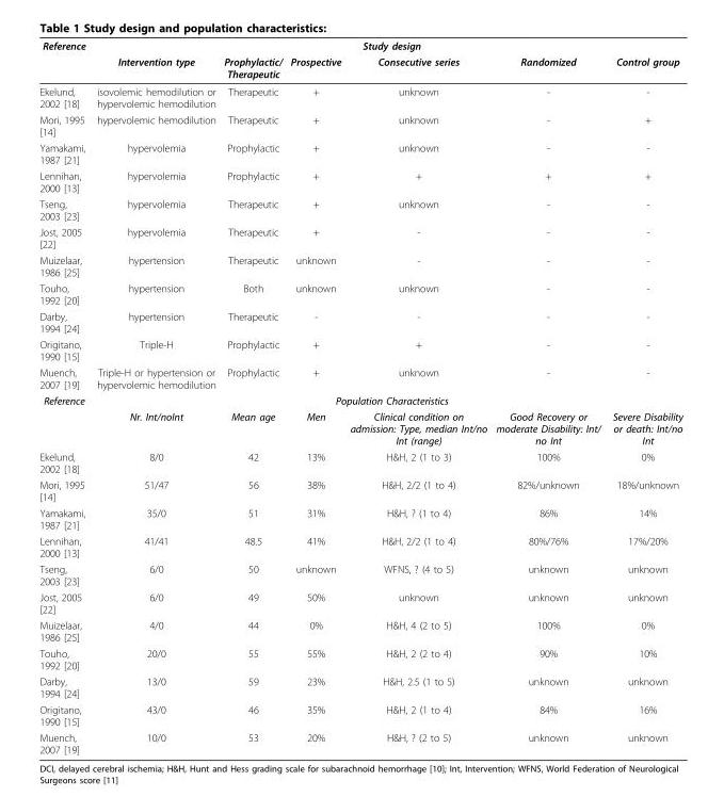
<table><thead><tr><td rowspan="2">Reference</td><td colspan="6">Study design</td></tr><tr><td>Intervention type</td><td>Prophylactic/ Therapeutic</td><td>Prospective</td><td>Consecutive series</td><td>Randomized</td><td>Control group</td></tr></thead><tbody><tr><td>Ekelund, 2002 [18]</td><td>isovolemic hemodilution or hypervolemic hemodilution</td><td>Therapeutic</td><td>+</td><td>unknown</td><td>-</td><td>-</td></tr><tr><td>Mori, 1995 [14]</td><td>hypervolemic hemodilution</td><td>Therapeutic</td><td>+</td><td>unknown</td><td>-</td><td>+</td></tr><tr><td>Yamakami, 1987 [21]</td><td>hypervolemia</td><td>Prophylactic</td><td>+</td><td>unknown</td><td>-</td><td>-</td></tr><tr><td>Lennihan, 2000 [13]</td><td>hypervolemia</td><td>Prophylactic</td><td>+</td><td>+</td><td>+</td><td>+</td></tr><tr><td>Tseng, 2003 [23]</td><td>hypervolemia</td><td>Therapeutic</td><td>+</td><td>unknown</td><td>-</td><td>-</td></tr><tr><td>Jost, 2005 [22]</td><td>hypervolemia</td><td>Therapeutic</td><td>+</td><td>-</td><td>-</td><td>-</td></tr><tr><td>Muizelaar, 1986 [25]</td><td>hypertension</td><td>Therapeutic</td><td>unknown</td><td>-</td><td>-</td><td>-</td></tr><tr><td>Touho, 1992 [20]</td><td>hypertension</td><td>Both</td><td>unknown</td><td>unknown</td><td>-</td><td>-</td></tr><tr><td>Darby, 1994 [24]</td><td>hypertension</td><td>Therapeutic</td><td>-</td><td>-</td><td>-</td><td>-</td></tr><tr><td>Origitano, 1990 [15]</td><td>Triple-H</td><td>Prophylactic</td><td>+</td><td>+</td><td>-</td><td>-</td></tr><tr><td>Muench, 2007 [19]</td><td>Triple-H or hypertension or hypervolemic hemodilution</td><td>Prophylactic</td><td>+</td><td>unknown</td><td>-</td><td>-</td></tr><tr><td rowspan="2">Reference</td><td colspan="6">Population Characteristics</td></tr><tr><td>Nr. Int/noInt</td><td>Mean age</td><td>Men</td><td>Clinical condition on admission: Type, median Int/no Int (range)</td><td>Good Recovery or moderate Disability: Int/ no Int</td><td>Severe Disability or death: Int/no Int</td></tr><tr><td>Ekelund, 2002 [18]</td><td>8/0</td><td>42</td><td>13%</td><td>H&amp;H, 2 (1 to 3)</td><td>100%</td><td>0%</td></tr><tr><td>Mori, 1995 [14]</td><td>51/47</td><td>56</td><td>38%</td><td>H&amp;H, 2/2 (1 to 4)</td><td>82%/unknown</td><td>18%/unknown</td></tr><tr><td>Yamakami, 1987 [21]</td><td>35/0</td><td>51</td><td>31%</td><td>H&amp;H, ? (1 to 4)</td><td>86%</td><td>14%</td></tr><tr><td>Lennihan, 2000 [13]</td><td>41/41</td><td>48.5</td><td>41%</td><td>H&amp;H, 2/2 (1 to 4)</td><td>80%/76%</td><td>17%/20%</td></tr><tr><td>Tseng, 2003 [23]</td><td>6/0</td><td>50</td><td>unknown</td><td>WFNS, ? (4 to 5)</td><td>unknown</td><td>unknown</td></tr><tr><td>Jost, 2005 [22]</td><td>6/0</td><td>49</td><td>50%</td><td>unknown</td><td>unknown</td><td>unknown</td></tr><tr><td>Muizelaar, 1986 [25]</td><td>4/0</td><td>44</td><td>0%</td><td>H&amp;H, 4 (2 to 5)</td><td>100%</td><td>0%</td></tr><tr><td>Touho, 1992 [20]</td><td>20/0</td><td>55</td><td>55%</td><td>H&amp;H, 2 (2 to 4)</td><td>90%</td><td>10%</td></tr><tr><td>Darby, 1994 [24]</td><td>13/0</td><td>59</td><td>23%</td><td>H&amp;H, 2.5 (1 to 5)</td><td>unknown</td><td>unknown</td></tr><tr><td>Origitano, 1990 [15]</td><td>43/0</td><td>46</td><td>35%</td><td>H&amp;H, 2 (1 to 4)</td><td>84%</td><td>16%</td></tr><tr><td>Muench, 2007 [19]</td><td>10/0</td><td>53</td><td>20%</td><td>H&amp;H, ? (2 to 5)</td><td>unknown</td><td>unknown</td></tr></tbody></table>